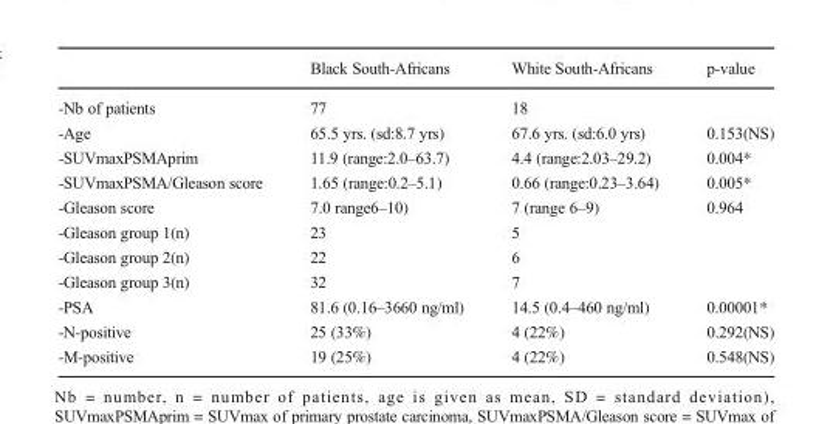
<table><thead><tr><td></td><td>Black South-Africans</td><td>White South-Africans</td><td>p-value</td></tr></thead><tbody><tr><td>-Nb of patients</td><td>77</td><td>18</td><td></td></tr><tr><td>-Age</td><td>65.5 yrs. (sd:8.7 yrs)</td><td>67.6 yrs. (sd:6.0 yrs)</td><td>0.153(NS)</td></tr><tr><td>-SUVmaxPSMAprim</td><td>11.9 (range:2.0–63.7)</td><td>4.4 (range:2.03–29.2)</td><td>0.004*</td></tr><tr><td>-SUVmaxPSMA/Gleason score</td><td>1.65 (range:0.2–5.1)</td><td>0.66 (range:0.23–3.64)</td><td>0.005*</td></tr><tr><td>-Gleason score</td><td>7.0 range6–10)</td><td>7 (range 6–9)</td><td>0.964</td></tr><tr><td>-Gleason group 1(n)</td><td>23</td><td>5</td><td></td></tr><tr><td>-Gleason group 2(n)</td><td>22</td><td>6</td><td></td></tr><tr><td>-Gleason group 3(n)</td><td>32</td><td>7</td><td></td></tr><tr><td>-PSA</td><td>81.6 (0.16–3660 ng/ml)</td><td>14.5 (0.4–460 ng/ml)</td><td>0.00001*</td></tr><tr><td>-N-positive</td><td>25 (33%)</td><td>4 (22%)</td><td>0.292(NS)</td></tr><tr><td>-M-positive</td><td>19 (25%)</td><td>4 (22%)</td><td>0.548(NS)</td></tr></tbody></table>